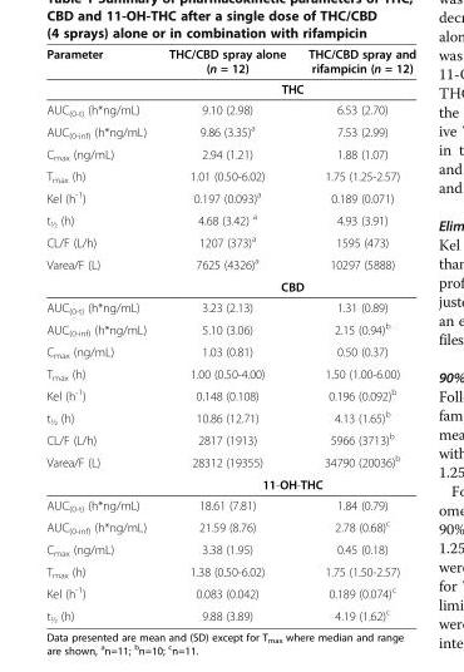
<table><thead><tr><td>Parameter</td><td>THC/CBD spray alone (n = 12)</td><td>THC/CBD spray and rifampicin (n = 12)</td></tr></thead><tbody><tr><td></td><td colspan="2">THC</td></tr><tr><td>AUC<sub>(0-t)</sub> (h*ng/mL)</td><td>9.10 (2.98)</td><td>6.53 (2.70)</td></tr><tr><td>AUC<sub>(0-inf)</sub> (h*ng/mL)</td><td>9.86 (3.35)<sup>a</sup></td><td>7.53 (2.99)</td></tr><tr><td>C<sub>max</sub> (ng/mL)</td><td>2.94 (1.21)</td><td>1.88 (1.07)</td></tr><tr><td>T<sub>max</sub> (h)</td><td>1.01 (0.50-6.02)</td><td>1.75 (1.25-2.57)</td></tr><tr><td>Kel (h<sup>-1</sup>)</td><td>0.197 (0.093)<sup>a</sup></td><td>0.189 (0.071)</td></tr><tr><td>t<sub>½</sub> (h)</td><td>4.68 (3.42) <sup>a</sup></td><td>4.93 (3.91)</td></tr><tr><td>CL/F (L/h)</td><td>1207 (373)<sup>a</sup></td><td>1595 (473)</td></tr><tr><td rowspan="2">Varea/F (L)</td><td>7625 (4326)<sup>a</sup></td><td>10297 (5888)</td></tr><tr><td colspan="2">CBD</td></tr><tr><td>AUC<sub>(0-t)</sub> (h*ng/mL)</td><td>3.23 (2.13)</td><td>1.31 (0.89)</td></tr><tr><td>AUC<sub>(0-inf)</sub> (h*ng/mL)</td><td>5.10 (3.06)</td><td>2.15 (0.94)<sup>b</sup></td></tr><tr><td>C<sub>max</sub> (ng/mL)</td><td>1.03 (0.81)</td><td>0.50 (0.37)</td></tr><tr><td>T<sub>max</sub> (h)</td><td>1.00 (0.50-4.00)</td><td>1.50 (1.00-6.00)</td></tr><tr><td>Kel (h<sup>-1</sup>)</td><td>0.148 (0.108)</td><td>0.196 (0.092)<sup>b</sup></td></tr><tr><td>t<sub>½</sub> (h)</td><td>10.86 (12.71)</td><td>4.13 (1.65)<sup>b</sup></td></tr><tr><td>CL/F (L/h)</td><td>2817 (1913)</td><td>5966 (3713)<sup>b</sup></td></tr><tr><td rowspan="2">Varea/F (L)</td><td>28312 (19355)</td><td>34790 (20036)<sup>b</sup></td></tr><tr><td colspan="2">11-OH-THC</td></tr><tr><td>AUC<sub>(0-t)</sub> (h*ng/mL)</td><td>18.61 (7.81)</td><td>1.84 (0.79)</td></tr><tr><td>AUC<sub>(0-inf)</sub> (h*ng/mL)</td><td>21.59 (8.76)</td><td>2.78 (0.68)<sup>c</sup></td></tr><tr><td>C<sub>max</sub> (ng/mL)</td><td>3.38 (1.95)</td><td>0.45 (0.18)</td></tr><tr><td>T<sub>max</sub> (h)</td><td>1.38 (0.50-6.02)</td><td>1.75 (1.50-2.57)</td></tr><tr><td>Kel (h<sup>-1</sup>)</td><td>0.083 (0.042)</td><td>0.189 (0.074)<sup>c</sup></td></tr><tr><td>t<sub>½</sub> (h)</td><td>9.88 (3.89)</td><td>4.19 (1.62)<sup>c</sup></td></tr></tbody></table>